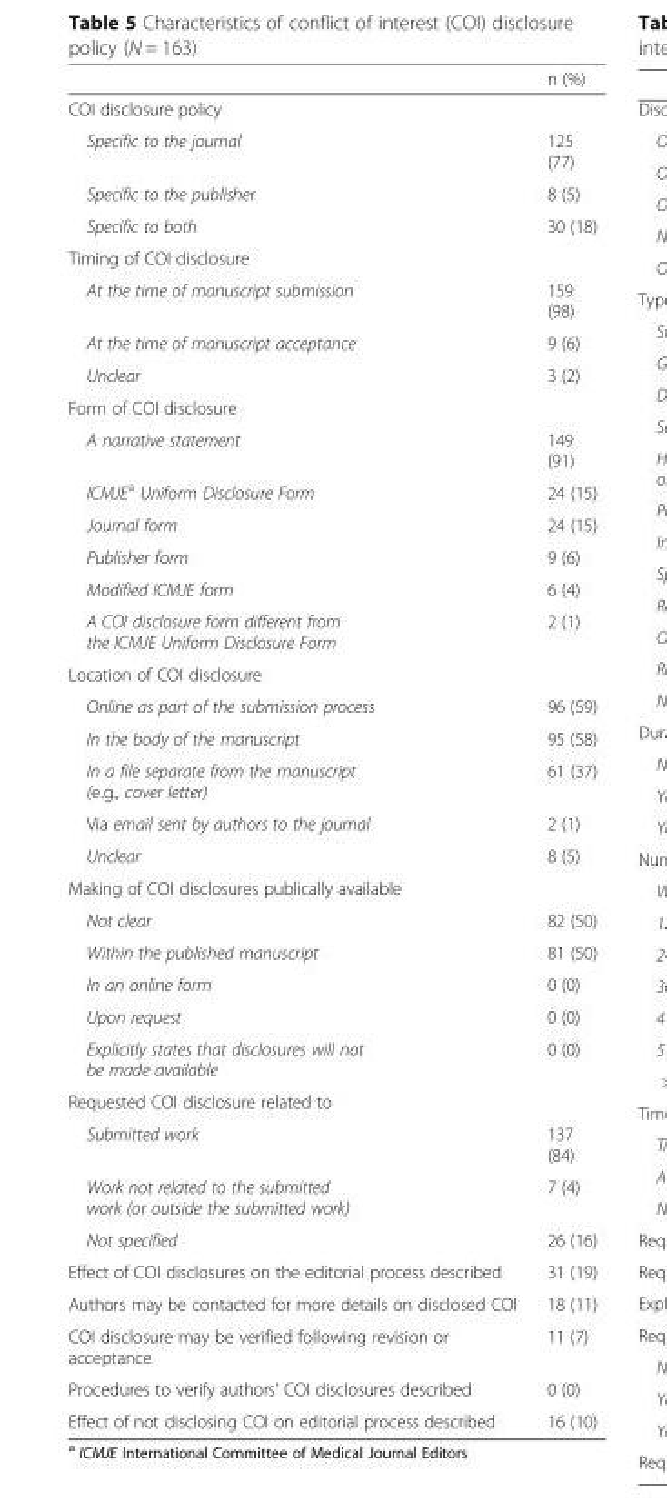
<table><thead><tr><td></td><td>n (%)</td></tr></thead><tbody><tr><td colspan="2">COI disclosure policy</td></tr><tr><td>Specific to the journal</td><td>125 (77)</td></tr><tr><td>Specific to the publisher</td><td>8 (5)</td></tr><tr><td>Specific to both</td><td>30 (18)</td></tr><tr><td colspan="2">Timing of COI disclosure</td></tr><tr><td>At the time of manuscript submission</td><td>159 (98)</td></tr><tr><td>At the time of manuscript acceptance</td><td>9 (6)</td></tr><tr><td>Unclear</td><td>3 (2)</td></tr><tr><td colspan="2">Form of COI disclosure</td></tr><tr><td>A narrative statement</td><td>149 (91)</td></tr><tr><td>ICMJE<sup>a</sup> Uniform Disclosure Form</td><td>24 (15)</td></tr><tr><td>Journal form</td><td>24 (15)</td></tr><tr><td>Publisher form</td><td>9 (6)</td></tr><tr><td>Modified ICMJE form</td><td>6 (4)</td></tr><tr><td>A COI disclosure form different from the ICMJE Uniform Disclosure Form</td><td>2 (1)</td></tr><tr><td colspan="2">Location of COI disclosure</td></tr><tr><td>Online as part of the submission process</td><td>96 (59)</td></tr><tr><td>In the body of the manuscript</td><td>95 (58)</td></tr><tr><td>In a file separate from the manuscript (e.g., cover letter)</td><td>61 (37)</td></tr><tr><td>Via email sent by authors to the journal</td><td>2 (1)</td></tr><tr><td>Unclear</td><td>8 (5)</td></tr><tr><td colspan="2">Making of COI disclosures publically available</td></tr><tr><td>Not clear</td><td>82 (50)</td></tr><tr><td>Within the published manuscript</td><td>81 (50)</td></tr><tr><td>In an online form</td><td>0 (0)</td></tr><tr><td>Upon request</td><td>0 (0)</td></tr><tr><td>Explicitly states that disclosures will not be made available</td><td>0 (0)</td></tr><tr><td colspan="2">Requested COI disclosure related to</td></tr><tr><td>Submitted work</td><td>137 (84)</td></tr><tr><td>Work not related to the submitted work (or outside the submitted work)</td><td>7 (4)</td></tr><tr><td>Not specified</td><td>26 (16)</td></tr><tr><td>Effect of COI disclosures on the editorial process described</td><td>31 (19)</td></tr><tr><td>Authors may be contacted for more details on disclosed COI</td><td>18 (11)</td></tr><tr><td>COI disclosure may be verified following revision or acceptance</td><td>11 (7)</td></tr><tr><td>Procedures to verify authors’ COI disclosures described</td><td>0 (0)</td></tr><tr><td>Effect of not disclosing COI on editorial process described</td><td>16 (10)</td></tr></tbody></table>